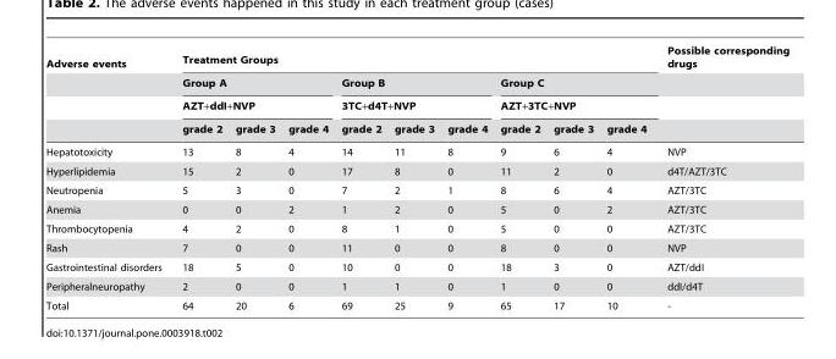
<table><thead><tr><td rowspan="4">Adverse events</td><td colspan="9">Treatment Groups</td><td rowspan="4">Possible corresponding drugs</td></tr><tr><td rowspan="2" colspan="3">Group A AZT+ddI+NVP</td><td rowspan="2" colspan="3">Group B 3TC+d4T+NVP</td><td rowspan="2" colspan="3">Group C AZT+3TC+NVP</td></tr><tr></tr><tr><td>grade 2</td><td>grade 3</td><td>grade 4</td><td>grade 2</td><td>grade 3</td><td>grade 4</td><td>grade 2</td><td>grade 3</td><td>grade 4</td></tr></thead><tbody><tr><td>Hepatotoxicity</td><td>13</td><td>8</td><td>4</td><td>14</td><td>11</td><td>8</td><td>9</td><td>6</td><td>4</td><td>NVP</td></tr><tr><td>Hyperlipidemia</td><td>15</td><td>2</td><td>0</td><td>17</td><td>8</td><td>0</td><td>11</td><td>2</td><td>0</td><td>d4T/AZT/3TC</td></tr><tr><td>Neutropenia</td><td>5</td><td>3</td><td>0</td><td>7</td><td>2</td><td>1</td><td>8</td><td>6</td><td>4</td><td>AZT/3TC</td></tr><tr><td>Anemia</td><td>0</td><td>0</td><td>2</td><td>1</td><td>2</td><td>0</td><td>5</td><td>0</td><td>2</td><td>AZT/3TC</td></tr><tr><td>Thrombocytopenia</td><td>4</td><td>2</td><td>0</td><td>8</td><td>1</td><td>0</td><td>5</td><td>0</td><td>0</td><td>AZT/3TC</td></tr><tr><td>Rash</td><td>7</td><td>0</td><td>0</td><td>11</td><td>0</td><td>0</td><td>8</td><td>0</td><td>0</td><td>NVP</td></tr><tr><td>Gastrointestinal disorders</td><td>18</td><td>5</td><td>0</td><td>10</td><td>0</td><td>0</td><td>18</td><td>3</td><td>0</td><td>AZT/ddI</td></tr><tr><td>Peripheralneuropathy</td><td>2</td><td>0</td><td>0</td><td>1</td><td>1</td><td>0</td><td>1</td><td>0</td><td>0</td><td>ddI/d4T</td></tr><tr><td>Total</td><td>64</td><td>20</td><td>6</td><td>69</td><td>25</td><td>9</td><td>65</td><td>17</td><td>10</td><td>-</td></tr></tbody></table>